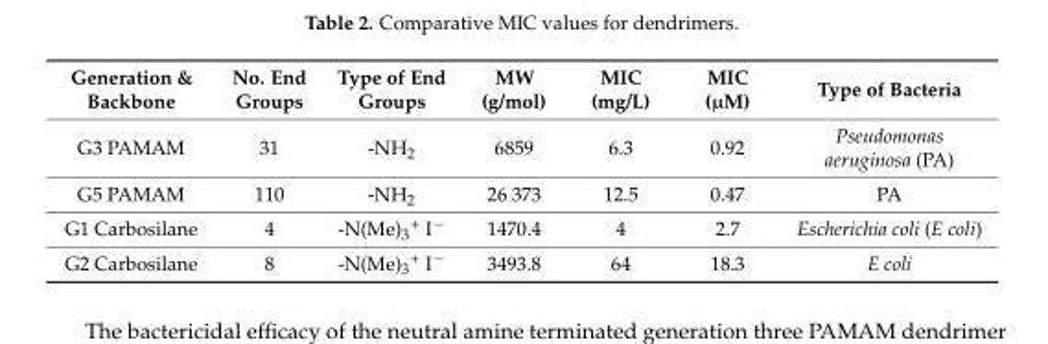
<table><thead><tr><td>Generation &amp; Backbone</td><td>No. End Groups</td><td>Type of End Groups</td><td>MW (g/mol)</td><td>MIC (mg/L)</td><td>MIC (µM)</td><td>Type of Bacteria</td></tr></thead><tbody><tr><td>G3 PAMAM</td><td>31</td><td>-NH2</td><td>6859</td><td>6.3</td><td>0.92</td><td>Pseudomonas aeruginosa (PA)</td></tr><tr><td>G5 PAMAM</td><td>110</td><td>-NH2</td><td>26 373</td><td>12.5</td><td>0.47</td><td>PA</td></tr><tr><td>G1 Carbosilane</td><td>4</td><td>-N(Me)3+ I−</td><td>1470.4</td><td>4</td><td>2.7</td><td>Escherichia coli (E coli)</td></tr><tr><td>G2 Carbosilane</td><td>8</td><td>-N(Me)3+ I−</td><td>3493.8</td><td>64</td><td>18.3</td><td>E coli</td></tr></tbody></table>